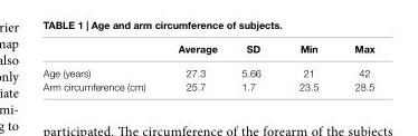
<table><thead><tr><td></td><td>average</td><td>sD</td><td>Min</td><td>Max</td></tr></thead><tbody><tr><td>Age (years)</td><td>27.3</td><td>5.66</td><td>21</td><td>42</td></tr><tr><td>Arm circumference (cm)</td><td>25.7</td><td>1.7</td><td>23.5</td><td>28.5</td></tr></tbody></table>